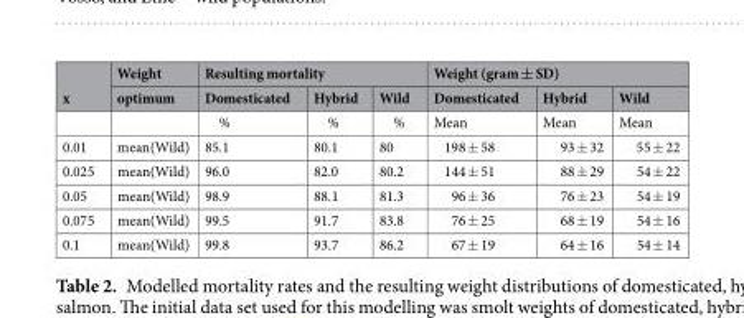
<table><thead><tr><td rowspan="2">x</td><td rowspan="2">Weight optimum</td><td colspan="3">Resulting mortality</td><td colspan="3">Weight (gram ± SD)</td></tr><tr><td>Domesticated</td><td>Hybrid</td><td>Wild</td><td>Domesticated</td><td>Hybrid</td><td>Wild</td></tr></thead><tbody><tr><td></td><td></td><td>%</td><td>%</td><td>%</td><td>Mean</td><td>Mean</td><td>Mean</td></tr><tr><td>0.01</td><td>mean(Wild)</td><td>85.1</td><td>80.1</td><td>80</td><td>198 ± 58</td><td>93 ± 32</td><td>55 ± 22</td></tr><tr><td>0.025</td><td>mean(Wild)</td><td>96.0</td><td>82.0</td><td>80.2</td><td>144 ± 51</td><td>88 ± 29</td><td>54 ± 22</td></tr><tr><td>0.05</td><td>mean(Wild)</td><td>98.9</td><td>88.1</td><td>81.3</td><td>96 ± 36</td><td>76 ± 23</td><td>54 ± 19</td></tr><tr><td>0.075</td><td>mean(Wild)</td><td>99.5</td><td>91.7</td><td>83.8</td><td>76 ± 25</td><td>68 ± 19</td><td>54 ± 16</td></tr><tr><td>0.1</td><td>mean(Wild)</td><td>99.8</td><td>93.7</td><td>86.2</td><td>67 ± 19</td><td>64 ± 16</td><td>54 ± 14</td></tr></tbody></table>